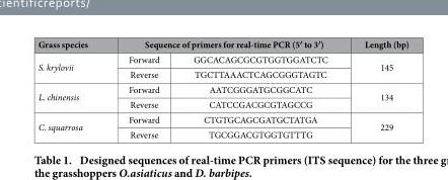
<table><tbody><tr><td>Grass species</td><td colspan="2">Sequence of primers for real-time PCR (5′ to 3′ )</td><td>Length (bp)</td></tr><tr><td rowspan="2">S. krylovii</td><td>Forward</td><td>GGCACAGCGCGTGGTGGATCTC</td><td rowspan="2">145</td></tr><tr><td>Reverse</td><td>TGCTTAAACTCAGCGGGTAGTC</td></tr><tr><td rowspan="2">L. chinensis</td><td>Forward</td><td>AATCGGGATGCGGCATC</td><td rowspan="2">134</td></tr><tr><td>Reverse</td><td>CATCCGACGCGTAGCCG</td></tr><tr><td rowspan="2">C. squarrosa</td><td>Forward</td><td>CTGTGCAGCGATGCTATGA</td><td rowspan="2">229</td></tr><tr><td>Reverse</td><td>TGCGGACGTGGTGTTTG</td></tr></tbody></table>